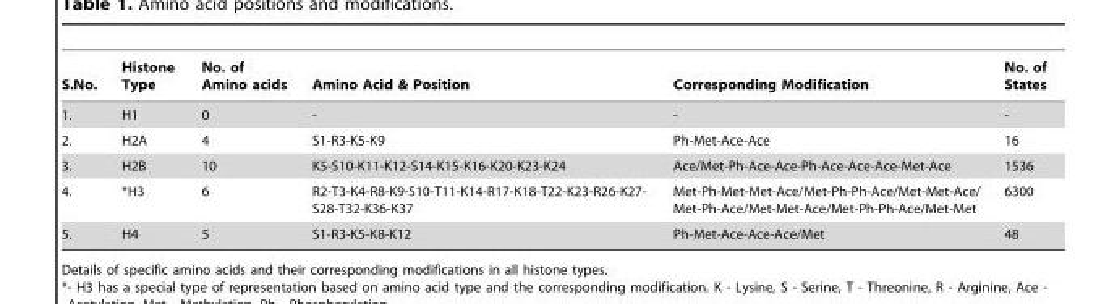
<table><thead><tr><td>S.No.</td><td>Histone Type</td><td>No. of Amino acids</td><td>Amino Acid &amp; Position</td><td>Corresponding Modification</td><td>No. of States</td></tr></thead><tbody><tr><td>1.</td><td>H1</td><td>0</td><td>-</td><td>-</td><td>-</td></tr><tr><td>2.</td><td>H2A</td><td>4</td><td>S1-R3-K5-K9</td><td>Ph-Met-Ace-Ace</td><td>16</td></tr><tr><td>3.</td><td>H2B</td><td>10</td><td>K5-S10-K11-K12-S14-K15-K16-K20-K23-K24</td><td>Ace/Met-Ph-Ace-Ace-Ph-Ace-Ace-Ace-Met-Ace</td><td>1536</td></tr><tr><td>4.</td><td>*H3</td><td>6</td><td>R2-T3-K4-R8-K9-S10-T11-K14-R17-K18-T22-K23-R26-K27- S28-T32-K36-K37</td><td>Met-Ph-Met-Met-Ace/Met-Ph-Ph-Ace/Met-Met-Ace/ Met-Ph-Ace/Met-Met-Ace/Met-Ph-Ph-Ace/Met-Met</td><td>6300</td></tr><tr><td>5.</td><td>H4</td><td>5</td><td>S1-R3-K5-K8-K12</td><td>Ph-Met-Ace-Ace-Ace/Met</td><td>48</td></tr></tbody></table>